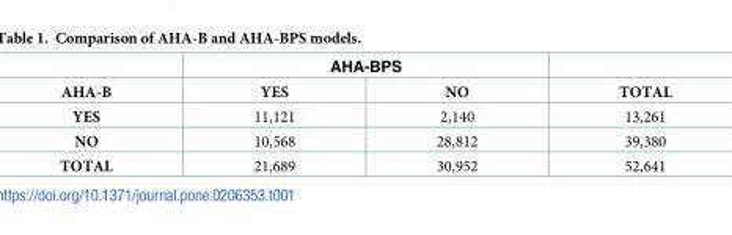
<table><thead><tr><td rowspan="2">AHA-B</td><td colspan="2">AHA-BPS</td><td rowspan="2">TOTAL</td></tr><tr><td>YES</td><td>NO</td></tr></thead><tbody><tr><td>YES</td><td>11,121</td><td>2,140</td><td>13,261</td></tr><tr><td>NO</td><td>10,568</td><td>28,812</td><td>39,380</td></tr><tr><td>TOTAL</td><td>21,689</td><td>30,952</td><td>52,641</td></tr></tbody></table>